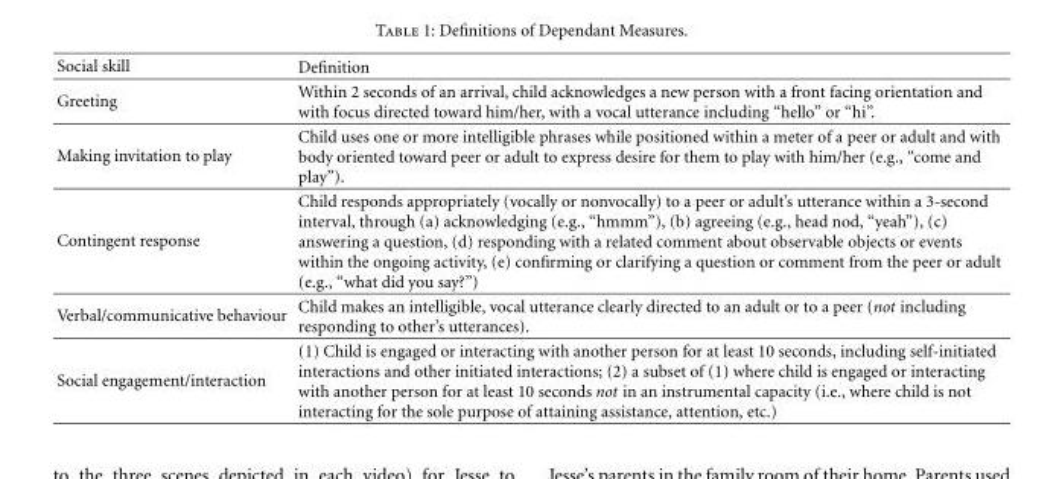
<table><thead><tr><td>Social skill</td><td>Definition</td></tr></thead><tbody><tr><td>Greeting</td><td>Within 2 seconds of an arrival, child acknowledges a new person with a front facing orientation and with focus directed toward him/her, with a vocal utterance including “hello” or “hi”.</td></tr><tr><td>Making invitation to play</td><td>Child uses one or more intelligible phrases while positioned within a meter of a peer or adult and with body oriented toward peer or adult to express desire for them to play with him/her (e.g., “come and play”).</td></tr><tr><td>Contingent response</td><td>Child responds appropriately (vocally or nonvocally) to a peer or adult’s utterance within a 3-second interval, through (a) acknowledging (e.g., “hmmm”), (b) agreeing (e.g., head nod, “yeah”), (c) answering a question, (d) responding with a related comment about observable objects or events within the ongoing activity, (e) confirming or clarifying a question or comment from the peer or adult (e.g., “what did you say?”)</td></tr><tr><td>Verbal/communicative behaviour</td><td>Child makes an intelligible, vocal utterance clearly directed to an adult or to a peer (not including responding to other’s utterances).</td></tr><tr><td>Social engagement/interaction</td><td>(1) Child is engaged or interacting with another person for at least 10 seconds, including self-initiated interactions and other initiated interactions; (2) a subset of (1) where child is engaged or interacting with another person for at least 10 seconds not in an instrumental capacity (i.e., where child is not interacting for the sole purpose of attaining assistance, attention, etc.)</td></tr></tbody></table>